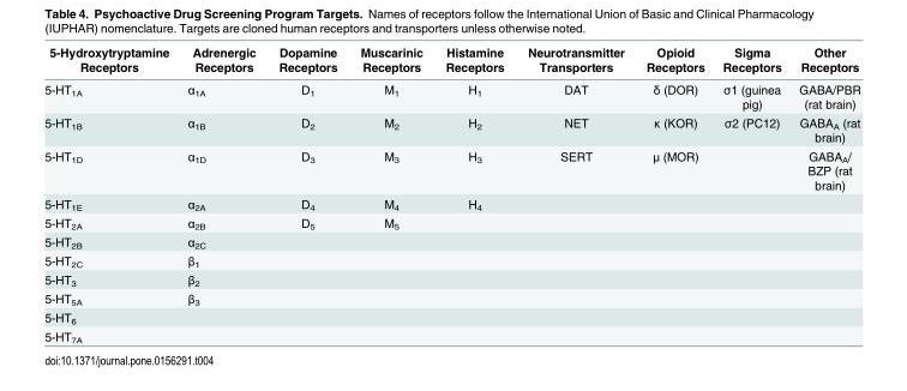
<table><thead><tr><td>5-Hydroxytryptamine Receptors</td><td>Adrenergic Receptors</td><td>Dopamine Receptors</td><td>Muscarinic Receptors</td><td>Histamine Receptors</td><td>Neurotransmitter Transporters</td><td>Opioid Receptors</td><td>Sigma Receptors</td><td>Other Receptors</td></tr></thead><tbody><tr><td>5-HT<sub>1A</sub></td><td>α<sub>1A</sub></td><td>D<sub>1</sub></td><td>M<sub>1</sub></td><td>H<sub>1</sub></td><td>DAT</td><td>δ (DOR)</td><td>σ1 (guinea pig)</td><td>GABA/PBR (rat brain)</td></tr><tr><td>5-HT<sub>1B</sub></td><td>α<sub>1B</sub></td><td>D<sub>2</sub></td><td>M<sub>2</sub></td><td>H<sub>2</sub></td><td>NET</td><td>κ (KOR)</td><td>σ2 (PC12)</td><td>GABA<sub>A</sub> (rat brain)</td></tr><tr><td>5-HT<sub>1D</sub></td><td>α<sub>1D</sub></td><td>D<sub>3</sub></td><td>M<sub>3</sub></td><td>H<sub>3</sub></td><td>SERT</td><td>μ (MOR)</td><td></td><td>GABA<sub>A</sub>/ BZP (rat brain)</td></tr><tr><td>5-HT<sub>1E</sub></td><td>α<sub>2A</sub></td><td>D<sub>4</sub></td><td>M<sub>4</sub></td><td>H<sub>4</sub></td><td></td><td></td><td></td><td></td></tr><tr><td>5-HT<sub>2A</sub></td><td>α<sub>2B</sub></td><td>D<sub>5</sub></td><td>M<sub>5</sub></td><td></td><td></td><td></td><td></td><td></td></tr><tr><td>5-HT<sub>2B</sub></td><td>α<sub>2C</sub></td><td></td><td></td><td></td><td></td><td></td><td></td><td></td></tr><tr><td>5-HT<sub>2C</sub></td><td>β<sub>1</sub></td><td></td><td></td><td></td><td></td><td></td><td></td><td></td></tr><tr><td>5-HT<sub>3</sub></td><td>β<sub>2</sub></td><td></td><td></td><td></td><td></td><td></td><td></td><td></td></tr><tr><td>5-HT<sub>5A</sub></td><td>β<sub>3</sub></td><td></td><td></td><td></td><td></td><td></td><td></td><td></td></tr><tr><td colspan="9">5-HT<sub>6</sub></td></tr><tr><td>5-HT<sub>7A</sub></td><td></td><td></td><td></td><td></td><td></td><td></td><td></td><td></td></tr></tbody></table>